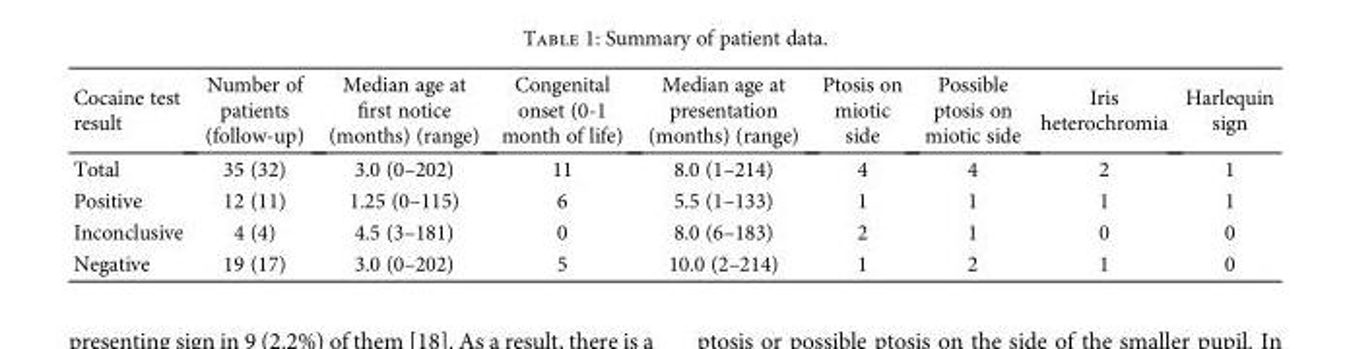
<table><thead><tr><td>Cocaine test result</td><td>Number of patients (follow-up)</td><td>Median age at first notice (months) (range)</td><td>Congenital onset (0-1 month of life)</td><td>Median age at presentation (months) (range)</td><td>Ptosis on miotic side</td><td>Possible ptosis on miotic side</td><td>Iris heterochromia</td><td>Harlequin sign</td></tr></thead><tbody><tr><td>Total</td><td>35 (32)</td><td>3.0 (0–202)</td><td>11</td><td>8.0 (1–214)</td><td>4</td><td>4</td><td>2</td><td>1</td></tr><tr><td>Positive</td><td>12 (11)</td><td>1.25 (0–115)</td><td>6</td><td>5.5 (1–133)</td><td>1</td><td>1</td><td>1</td><td>1</td></tr><tr><td>Inconclusive</td><td>4 (4)</td><td>4.5 (3–181)</td><td>0</td><td>8.0 (6–183)</td><td>2</td><td>1</td><td>0</td><td>0</td></tr><tr><td>Negative</td><td>19 (17)</td><td>3.0 (0–202)</td><td>5</td><td>10.0 (2–214)</td><td>1</td><td>2</td><td>1</td><td>0</td></tr></tbody></table>